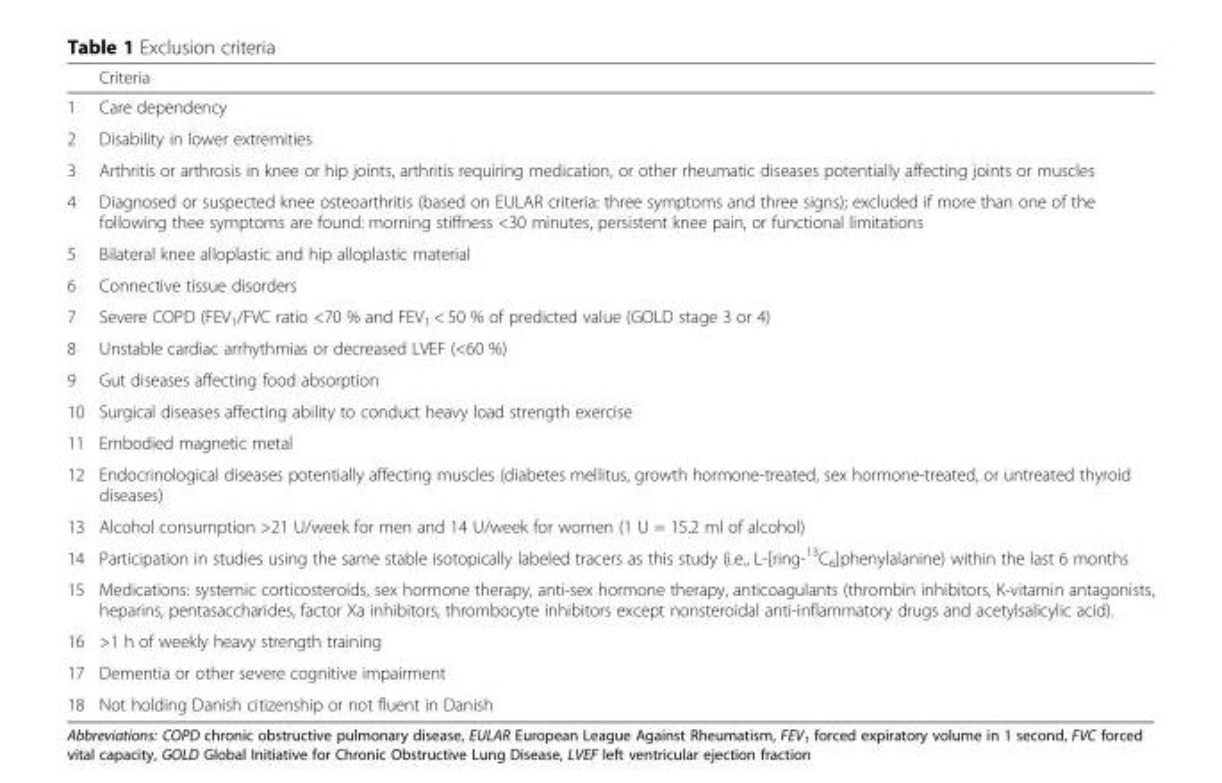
<table><thead><tr><td></td><td>Criteria</td></tr></thead><tbody><tr><td>1</td><td>Care dependency</td></tr><tr><td>2</td><td>Disability in lower extremities</td></tr><tr><td>3</td><td>Arthritis or arthrosis in knee or hip joints, arthritis requiring medication, or other rheumatic diseases potentially affecting joints or muscles</td></tr><tr><td>4</td><td>Diagnosed or suspected knee osteoarthritis (based on EULAR criteria: three symptoms and three signs); excluded if more than one of the following thee symptoms are found: morning stiffness &lt;30 minutes, persistent knee pain, or functional limitations</td></tr><tr><td>5</td><td>Bilateral knee alloplastic and hip alloplastic material</td></tr><tr><td>6</td><td>Connective tissue disorders</td></tr><tr><td>7</td><td>Severe COPD (FEV<sub>1</sub>/FVC ratio &lt;70 % and FEV<sub>1</sub> &lt; 50 % of predicted value (GOLD stage 3 or 4)</td></tr><tr><td>8</td><td>Unstable cardiac arrhythmias or decreased LVEF (&lt;60 %)</td></tr><tr><td>9</td><td>Gut diseases affecting food absorption</td></tr><tr><td>10</td><td>Surgical diseases affecting ability to conduct heavy load strength exercise</td></tr><tr><td>11</td><td>Embodied magnetic metal</td></tr><tr><td>12</td><td>Endocrinological diseases potentially affecting muscles (diabetes mellitus, growth hormone-treated, sex hormone-treated, or untreated thyroid diseases)</td></tr><tr><td>13</td><td>Alcohol consumption &gt;21 U/week for men and 14 U/week for women (1 U = 15.2 ml of alcohol)</td></tr><tr><td>14</td><td>Participation in studies using the same stable isotopically labeled tracers as this study (i.e., L-[ring-<sup>13</sup>C<sub>6</sub>]phenylalanine) within the last 6 months</td></tr><tr><td>15</td><td>Medications: systemic corticosteroids, sex hormone therapy, anti-sex hormone therapy, anticoagulants (thrombin inhibitors, K-vitamin antagonists, heparins, pentasaccharides, factor Xa inhibitors, thrombocyte inhibitors except nonsteroidal anti-inflammatory drugs and acetylsalicylic acid).</td></tr><tr><td>16</td><td>&gt;1 h of weekly heavy strength training</td></tr><tr><td>17</td><td>Dementia or other severe cognitive impairment</td></tr><tr><td>18</td><td>Not holding Danish citizenship or not fluent in Danish</td></tr></tbody></table>